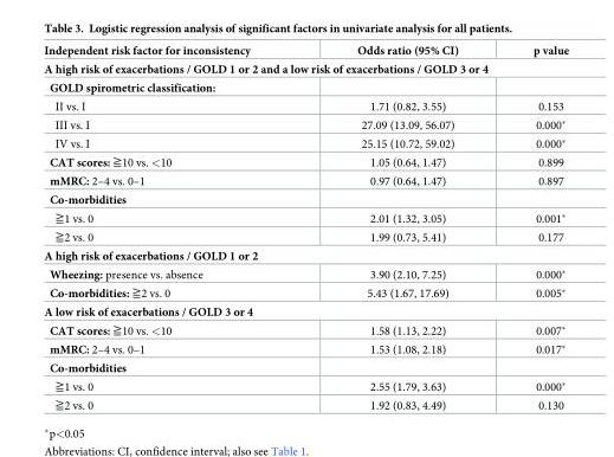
<table><thead><tr><td>Independent risk factor for inconsistency</td><td>Odds ratio (95% CI)</td><td>p value</td></tr></thead><tbody><tr><td colspan="3">A high risk of exacerbations / GOLD 1 or 2 and a low risk of exacerbations / GOLD 3 or 4</td></tr><tr><td colspan="3">GOLD spirometric classification:</td></tr><tr><td>II vs. I</td><td>1.71 (0.82, 3.55)</td><td>0.153</td></tr><tr><td>III vs. I</td><td>27.09 (13.09, 56.07)</td><td>0.000*</td></tr><tr><td>IV vs. I</td><td>25.15 (10.72, 59.02)</td><td>0.000*</td></tr><tr><td>CAT scores: ≧10 vs. &lt;10</td><td>1.05 (0.64, 1.47)</td><td>0.899</td></tr><tr><td>mMRC: 2–4 vs. 0–1</td><td>0.97 (0.64, 1.47)</td><td>0.897</td></tr><tr><td colspan="3">Co-morbidities</td></tr><tr><td>≧1 vs. 0</td><td>2.01 (1.32, 3.05)</td><td>0.001*</td></tr><tr><td>≧2 vs. 0</td><td>1.99 (0.73, 5.41)</td><td>0.177</td></tr><tr><td colspan="3">A high risk of exacerbations / GOLD 1 or 2</td></tr><tr><td>Wheezing: presence vs. absence</td><td>3.90 (2.10, 7.25)</td><td>0.000*</td></tr><tr><td>Co-morbidities: ≧2 vs. 0</td><td>5.43 (1.67, 17.69)</td><td>0.005*</td></tr><tr><td colspan="3">A low risk of exacerbations / GOLD 3 or 4</td></tr><tr><td>CAT scores: ≧10 vs. &lt;10</td><td>1.58 (1.13, 2.22)</td><td>0.007*</td></tr><tr><td>mMRC: 2–4 vs. 0–1</td><td>1.53 (1.08, 2.18)</td><td>0.017*</td></tr><tr><td colspan="3">Co-morbidities</td></tr><tr><td>≧1 vs. 0</td><td>2.55 (1.79, 3.63)</td><td>0.000*</td></tr><tr><td>≧2 vs. 0</td><td>1.92 (0.83, 4.49)</td><td>0.130</td></tr></tbody></table>